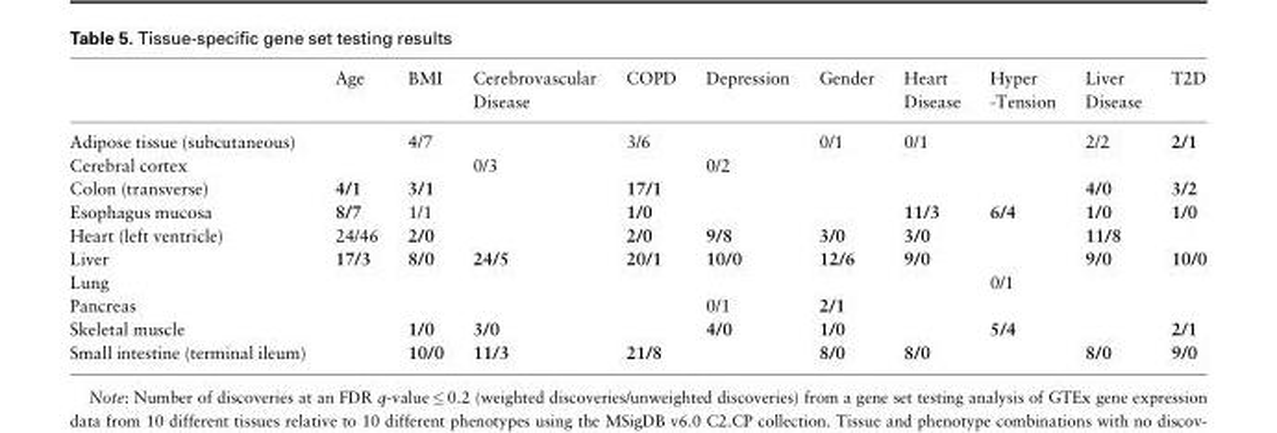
<table><thead><tr><td rowspan="2"></td><td rowspan="2">Age</td><td rowspan="2">BMI</td><td rowspan="2">Cerebrovascular Disease</td><td rowspan="2">COPD</td><td rowspan="2">Depression</td><td rowspan="2">Gender</td><td rowspan="2">Heart Disease</td><td rowspan="2">Hyper -Tension</td><td rowspan="2">Liver Disease</td><td rowspan="2">T2D</td></tr><tr></tr></thead><tbody><tr><td>Adipose tissue (subcutaneous)</td><td></td><td>4/7</td><td></td><td>3/6</td><td></td><td>0/1</td><td>0/1</td><td></td><td>2/2</td><td>2/1</td></tr><tr><td>Cerebral cortex</td><td></td><td></td><td>0/3</td><td></td><td>0/2</td><td></td><td></td><td></td><td></td><td></td></tr><tr><td>Colon (transverse)</td><td>4/1</td><td>3/1</td><td></td><td>17/1</td><td></td><td></td><td></td><td></td><td>4/0</td><td>3/2</td></tr><tr><td>Esophagus mucosa</td><td>8/7</td><td>1/1</td><td></td><td>1/0</td><td></td><td></td><td>11/3</td><td>6/4</td><td>1/0</td><td>1/0</td></tr><tr><td>Heart (left ventricle)</td><td>24/46</td><td>2/0</td><td></td><td>2/0</td><td>9/8</td><td>3/0</td><td>3/0</td><td></td><td>11/8</td><td></td></tr><tr><td>Liver</td><td>17/3</td><td>8/0</td><td>24/5</td><td>20/1</td><td>10/0</td><td>12/6</td><td>9/0</td><td></td><td>9/0</td><td>10/0</td></tr><tr><td>Lung</td><td></td><td></td><td></td><td></td><td></td><td></td><td></td><td>0/1</td><td></td><td></td></tr><tr><td>Pancreas</td><td></td><td></td><td></td><td></td><td>0/1</td><td>2/1</td><td></td><td></td><td></td><td></td></tr><tr><td>Skeletal muscle</td><td></td><td>1/0</td><td>3/0</td><td></td><td>4/0</td><td>1/0</td><td></td><td>5/4</td><td></td><td>2/1</td></tr><tr><td>Small intestine (terminal ileum)</td><td></td><td>10/0</td><td>11/3</td><td>21/8</td><td></td><td>8/0</td><td>8/0</td><td></td><td>8/0</td><td>9/0</td></tr></tbody></table>